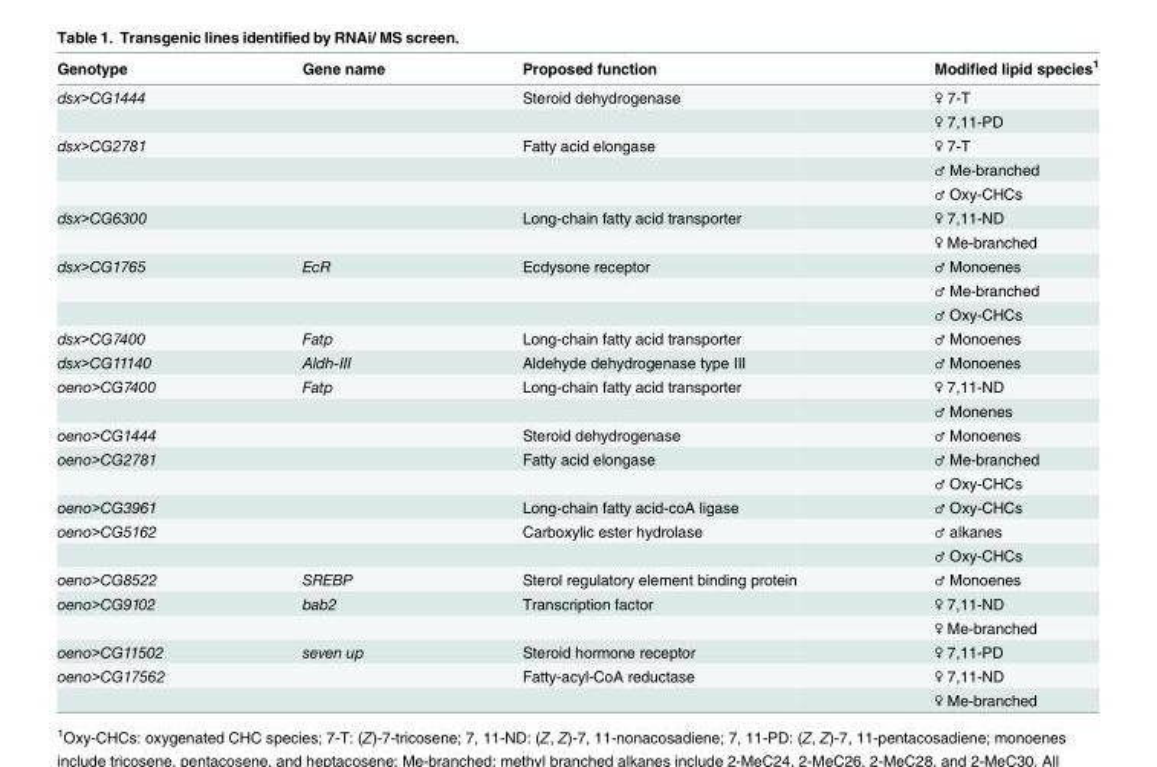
<table><thead><tr><td>Genotype</td><td>Gene name</td><td>Proposed function</td><td>Modified lipid species<sup>1</sup></td></tr></thead><tbody><tr><td rowspan="2">dsx&gt;CG1444</td><td></td><td>Steroid dehydrogenase</td><td>♀ 7-T</td></tr><tr><td></td><td></td><td>♀ 7,11-PD</td></tr><tr><td rowspan="3">dsx&gt;CG2781</td><td></td><td>Fatty acid elongase</td><td>♀ 7-T</td></tr><tr><td></td><td></td><td>♂ Me-branched</td></tr><tr><td></td><td></td><td>♂ Oxy-CHCs</td></tr><tr><td rowspan="2">dsx&gt;CG6300</td><td></td><td>Long-chain fatty acid transporter</td><td>♀ 7,11-ND</td></tr><tr><td></td><td></td><td>♀ Me-branched</td></tr><tr><td rowspan="3">dsx&gt;CG1765</td><td>EcR</td><td>Ecdysone receptor</td><td>♂ Monoenes</td></tr><tr><td></td><td></td><td>♂ Me-branched</td></tr><tr><td></td><td></td><td>♂ Oxy-CHCs</td></tr><tr><td>dsx&gt;CG7400</td><td>Fatp</td><td>Long-chain fatty acid transporter</td><td>♂ Monoenes</td></tr><tr><td>dsx&gt;CG11140</td><td>Aldh-III</td><td>Aldehyde dehydrogenase type III</td><td>♂ Monoenes</td></tr><tr><td rowspan="2">oeno&gt;CG7400</td><td>Fatp</td><td>Long-chain fatty acid transporter</td><td>♀ 7,11-ND</td></tr><tr><td></td><td></td><td>♂ Monenes</td></tr><tr><td>oeno&gt;CG1444</td><td></td><td>Steroid dehydrogenase</td><td>♂ Monoenes</td></tr><tr><td rowspan="2">oeno&gt;CG2781</td><td></td><td>Fatty acid elongase</td><td>♂ Me-branched</td></tr><tr><td></td><td></td><td>♂ Oxy-CHCs</td></tr><tr><td>oeno&gt;CG3961</td><td></td><td>Long-chain fatty acid-coA ligase</td><td>♂ Oxy-CHCs</td></tr><tr><td rowspan="2">oeno&gt;CG5162</td><td></td><td>Carboxylic ester hydrolase</td><td>♂ alkanes</td></tr><tr><td></td><td></td><td>♂ Oxy-CHCs</td></tr><tr><td>oeno&gt;CG8522</td><td>SREBP</td><td>Sterol regulatory element binding protein</td><td>♂ Monoenes</td></tr><tr><td rowspan="2">oeno&gt;CG9102</td><td>bab2</td><td>Transcription factor</td><td>♀ 7,11-ND</td></tr><tr><td></td><td></td><td>♀ Me-branched</td></tr><tr><td>oeno&gt;CG11502</td><td>seven up</td><td>Steroid hormone receptor</td><td>♀ 7,11-PD</td></tr><tr><td rowspan="2">oeno&gt;CG17562</td><td></td><td>Fatty-acyl-CoA reductase</td><td>♀ 7,11-ND</td></tr><tr><td></td><td></td><td>♀ Me-branched</td></tr></tbody></table>